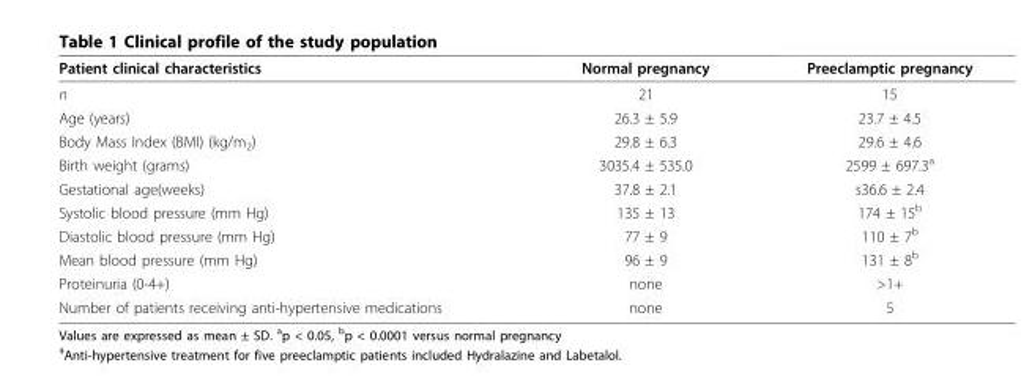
<table><thead><tr><td>Patient clinical characteristics</td><td>Normal pregnancy</td><td>Preeclamptic pregnancy</td></tr></thead><tbody><tr><td>n</td><td>21</td><td>15</td></tr><tr><td>Age (years)</td><td>26.3 ± 5.9</td><td>23.7 ± 4.5</td></tr><tr><td>Body Mass Index (BMI) (kg/m<sub>2</sub>)</td><td>29.8 ± 6.3</td><td>29.6 ± 4.6</td></tr><tr><td>Birth weight (grams)</td><td>3035.4 ± 535.0</td><td>2599 ± 697.3<sup>a</sup></td></tr><tr><td>Gestational age(weeks)</td><td>37.8 ± 2.1</td><td>s36.6 ± 2.4</td></tr><tr><td>Systolic blood pressure (mm Hg)</td><td>135 ± 13</td><td>174 ± 15<sup>b</sup></td></tr><tr><td>Diastolic blood pressure (mm Hg)</td><td>77 ± 9</td><td>110 ± 7<sup>b</sup></td></tr><tr><td>Mean blood pressure (mm Hg)</td><td>96 ± 9</td><td>131 ± 8<sup>b</sup></td></tr><tr><td>Proteinuria (0-4+)</td><td>none</td><td>&gt;1+</td></tr><tr><td>Number of patients receiving anti-hypertensive medications</td><td>none</td><td>5</td></tr></tbody></table>